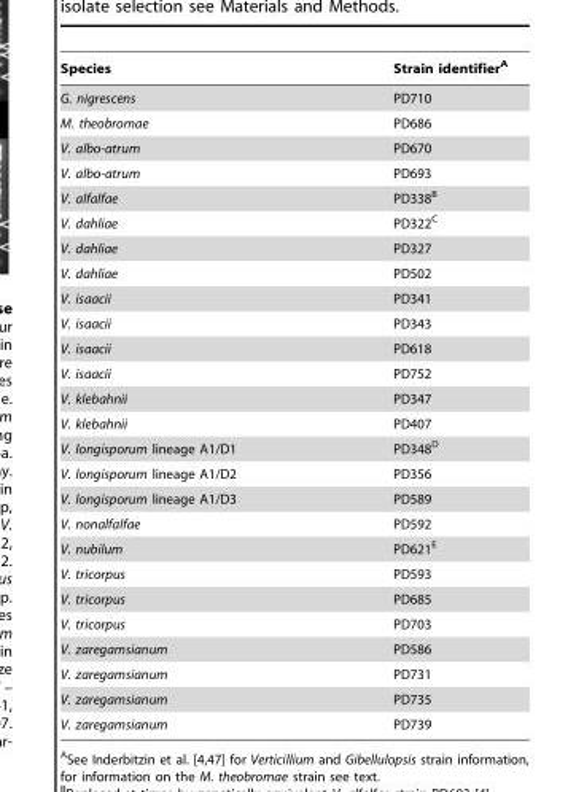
<table><thead><tr><td>Species</td><td>Strain identifier<sup>A</sup></td></tr></thead><tbody><tr><td>G. nigrescens</td><td>PD710</td></tr><tr><td>M. theobromae</td><td>PD686</td></tr><tr><td>V. albo-atrum</td><td>PD670</td></tr><tr><td>V. albo-atrum</td><td>PD693</td></tr><tr><td>V. alfalfae</td><td>PD338<sup>B</sup></td></tr><tr><td>V. dahliae</td><td>PD322<sup>C</sup></td></tr><tr><td>V. dahliae</td><td>PD327</td></tr><tr><td>V. dahliae</td><td>PD502</td></tr><tr><td>V. isaacii</td><td>PD341</td></tr><tr><td>V. isaacii</td><td>PD343</td></tr><tr><td>V. isaacii</td><td>PD618</td></tr><tr><td>V. isaacii</td><td>PD752</td></tr><tr><td>V. klebahnii</td><td>PD347</td></tr><tr><td>V. klebahnii</td><td>PD407</td></tr><tr><td>V. longisporum lineage A1/D1</td><td>PD348<sup>D</sup></td></tr><tr><td>V. longisporum lineage A1/D2</td><td>PD356</td></tr><tr><td>V. longisporum lineage A1/D3</td><td>PD589</td></tr><tr><td>V. nonalfalfae</td><td>PD592</td></tr><tr><td>V. nubilum</td><td>PD621<sup>E</sup></td></tr><tr><td>V. tricorpus</td><td>PD593</td></tr><tr><td>V. tricorpus</td><td>PD685</td></tr><tr><td>V. tricorpus</td><td>PD703</td></tr><tr><td>V. zaregamsianum</td><td>PD586</td></tr><tr><td>V. zaregamsianum</td><td>PD731</td></tr><tr><td>V. zaregamsianum</td><td>PD735</td></tr><tr><td>V. zaregamsianum</td><td>PD739</td></tr></tbody></table>